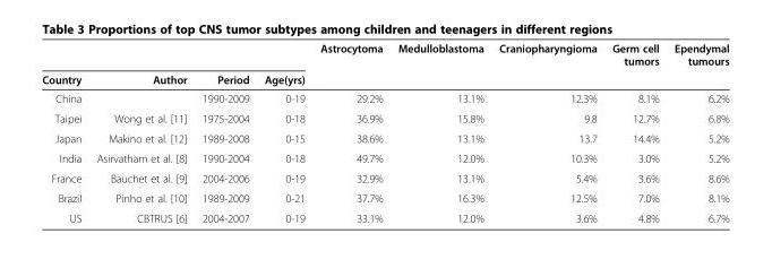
<table><thead><tr><td rowspan="2">Country</td><td rowspan="2">Author</td><td rowspan="2">Period</td><td rowspan="2">Age(yrs)</td><td rowspan="2">Astrocytoma</td><td rowspan="2">Medulloblastoma</td><td rowspan="2">Craniopharyngioma</td><td rowspan="2">Germ cell tumors</td><td rowspan="2">Ependymal tumours</td></tr><tr></tr></thead><tbody><tr><td>China</td><td></td><td>1990-2009</td><td>0-19</td><td>29.2%</td><td>13.1%</td><td>12.3%</td><td>8.1%</td><td>6.2%</td></tr><tr><td>Taipei</td><td>Wong et al. [11]</td><td>1975-2004</td><td>0-18</td><td>36.9%</td><td>15.8%</td><td>9.8</td><td>12.7%</td><td>6.8%</td></tr><tr><td>Japan</td><td>Makino et al. [12]</td><td>1989-2008</td><td>0-15</td><td>38.6%</td><td>13.1%</td><td>13.7</td><td>14.4%</td><td>5.2%</td></tr><tr><td>India</td><td>Asirvatham et al. [8]</td><td>1990-2004</td><td>0-18</td><td>49.7%</td><td>12.0%</td><td>10.3%</td><td>3.0%</td><td>5.2%</td></tr><tr><td>France</td><td>Bauchet et al. [9]</td><td>2004-2006</td><td>0-19</td><td>32.9%</td><td>13.1%</td><td>5.4%</td><td>3.6%</td><td>8.6%</td></tr><tr><td>Brazil</td><td>Pinho et al. [10]</td><td>1989-2009</td><td>0-21</td><td>37.7%</td><td>16.3%</td><td>12.5%</td><td>7.0%</td><td>8.1%</td></tr><tr><td>US</td><td>CBTRUS [6]</td><td>2004-2007</td><td>0-19</td><td>33.1%</td><td>12.0%</td><td>3.6%</td><td>4.8%</td><td>6.7%</td></tr></tbody></table>